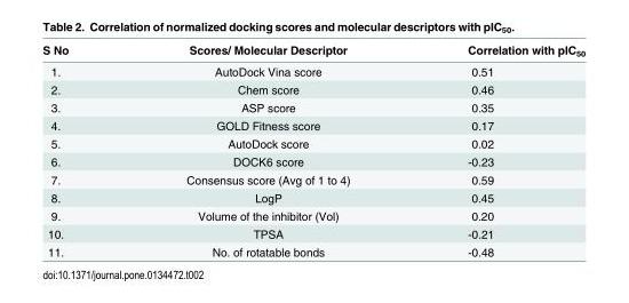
<table><thead><tr><td>S No</td><td>Scores/ Molecular Descriptor</td><td>Correlation with pIC<sub>50</sub></td></tr></thead><tbody><tr><td>1.</td><td>AutoDock Vina score</td><td>0.51</td></tr><tr><td>2.</td><td>Chem score</td><td>0.46</td></tr><tr><td>3.</td><td>ASP score</td><td>0.35</td></tr><tr><td>4.</td><td>GOLD Fitness score</td><td>0.17</td></tr><tr><td>5.</td><td>AutoDock score</td><td>0.02</td></tr><tr><td>6.</td><td>DOCK6 score</td><td>-0.23</td></tr><tr><td>7.</td><td>Consensus score (Avg of 1 to 4)</td><td>0.59</td></tr><tr><td>8.</td><td>LogP</td><td>0.45</td></tr><tr><td>9.</td><td>Volume of the inhibitor (Vol)</td><td>0.20</td></tr><tr><td>10.</td><td>TPSA</td><td>-0.21</td></tr><tr><td>11.</td><td>No. of rotatable bonds</td><td>-0.48</td></tr></tbody></table>